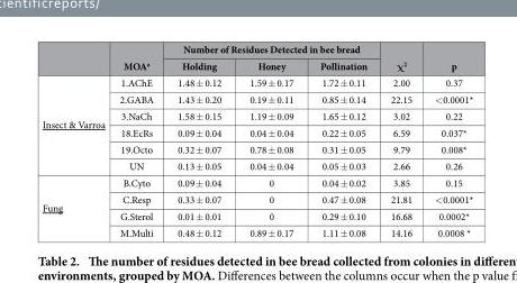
<table><thead><tr><td rowspan="2"></td><td rowspan="2">MOA<sup>a</sup></td><td colspan="3">Number of Residues Detected in bee bread</td><td rowspan="2">χ<sup>2</sup></td><td rowspan="2">p</td></tr><tr><td>Holding</td><td>Honey</td><td>Pollination</td></tr></thead><tbody><tr><td rowspan="6">Insect &amp; Varroa</td><td>1.AChE</td><td>1.48 ± 0.12</td><td>1.59 ± 0.17</td><td>1.72 ± 0.11</td><td>2.00</td><td>0.37</td></tr><tr><td>2.GABA</td><td>1.43 ± 0.20</td><td>0.19 ± 0.11</td><td>0.85 ± 0.14</td><td>22.15</td><td>&lt;0.0001*</td></tr><tr><td>3.NaCh</td><td>1.58 ± 0.15</td><td>1.19 ± 0.09</td><td>1.65 ± 0.12</td><td>3.02</td><td>0.22</td></tr><tr><td>18.EcRs</td><td>0.09 ± 0.04</td><td>0.04 ± 0.04</td><td>0.22 ± 0.05</td><td>6.59</td><td>0.037*</td></tr><tr><td>19.Octo</td><td>0.32 ± 0.07</td><td>0.78 ± 0.08</td><td>0.31 ± 0.05</td><td>9.79</td><td>0.008*</td></tr><tr><td>UN</td><td>0.13 ± 0.05</td><td>0.04 ± 0.04</td><td>0.05 ± 0.03</td><td>2.66</td><td>0.26</td></tr><tr><td rowspan="4">Fung</td><td>B.Cyto</td><td>0.09 ± 0.04</td><td>0</td><td>0.04 ± 0.02</td><td>3.85</td><td>0.15</td></tr><tr><td>C.Resp</td><td>0.33 ± 0.07</td><td>0</td><td>0.47 ± 0.08</td><td>21.81</td><td>&lt;0.0001*</td></tr><tr><td>G.Sterol</td><td>0.01 ± 0.01</td><td>0</td><td>0.29 ± 0.10</td><td>16.68</td><td>0.0002*</td></tr><tr><td>M.Multi</td><td>0.48 ± 0.12</td><td>0.89 ± 0.17</td><td>1.11 ± 0.08</td><td>14.16</td><td>0.0008 *</td></tr></tbody></table>